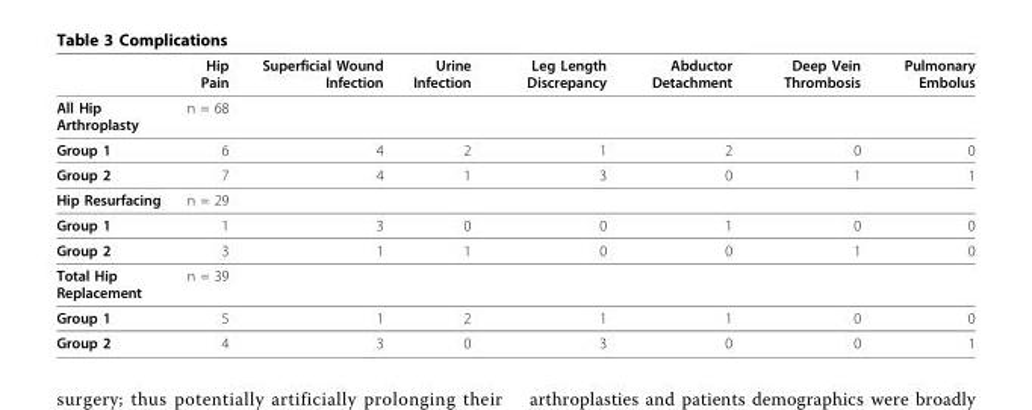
<table><thead><tr><td></td><td>Hip Pain</td><td>Superficial Wound Infection</td><td>Urine Infection</td><td>Leg Length Discrepancy</td><td>Abductor Detachment</td><td>Deep Vein Thrombosis</td><td>Pulmonary Embolus</td></tr></thead><tbody><tr><td>All Hip Arthroplasty</td><td>n = 68</td><td></td><td></td><td></td><td></td><td></td><td></td></tr><tr><td>Group 1</td><td>6</td><td>4</td><td>2</td><td>1</td><td>2</td><td>0</td><td>0</td></tr><tr><td>Group 2</td><td>7</td><td>4</td><td>1</td><td>3</td><td>0</td><td>1</td><td>1</td></tr><tr><td>Hip Resurfacing</td><td>n = 29</td><td></td><td></td><td></td><td></td><td></td><td></td></tr><tr><td>Group 1</td><td>1</td><td>3</td><td>0</td><td>0</td><td>1</td><td>0</td><td>0</td></tr><tr><td>Group 2</td><td>3</td><td>1</td><td>1</td><td>0</td><td>0</td><td>1</td><td>0</td></tr><tr><td>Total Hip Replacement</td><td>n = 39</td><td></td><td></td><td></td><td></td><td></td><td></td></tr><tr><td>Group 1</td><td>5</td><td>1</td><td>2</td><td>1</td><td>1</td><td>0</td><td>0</td></tr><tr><td>Group 2</td><td>4</td><td>3</td><td>0</td><td>3</td><td>0</td><td>0</td><td>1</td></tr></tbody></table>